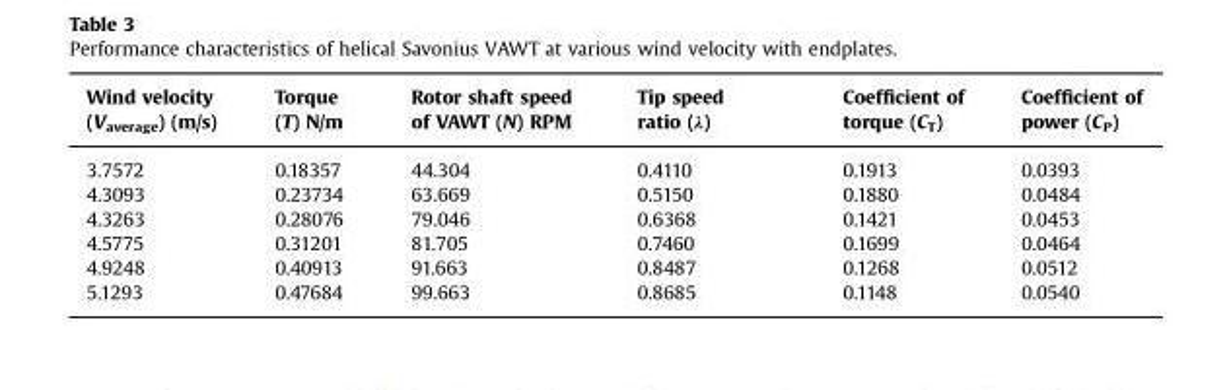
<table><thead><tr><td>Wind velocity (V<sub>average</sub>) (m/s)</td><td>Torque (T) N/m</td><td>Rotor shaft speed of VAWT (N) RPM</td><td>Tip speed ratio (λ)</td><td>Coefficient of torque (C<sub>T</sub>)</td><td>Coefficient of power (C<sub>P</sub>)</td></tr></thead><tbody><tr><td>3.7572</td><td>0.18357</td><td>44.304</td><td>0.4110</td><td>0.1913</td><td>0.0393</td></tr><tr><td>4.3093</td><td>0.23734</td><td>63.669</td><td>0.5150</td><td>0.1880</td><td>0.0484</td></tr><tr><td>4.3263</td><td>0.28076</td><td>79.046</td><td>0.6368</td><td>0.1421</td><td>0.0453</td></tr><tr><td>4.5775</td><td>0.31201</td><td>81.705</td><td>0.7460</td><td>0.1699</td><td>0.0464</td></tr><tr><td>4.9248</td><td>0.40913</td><td>91.663</td><td>0.8487</td><td>0.1268</td><td>0.0512</td></tr><tr><td>5.1293</td><td>0.47684</td><td>99.663</td><td>0.8685</td><td>0.1148</td><td>0.0540</td></tr></tbody></table>